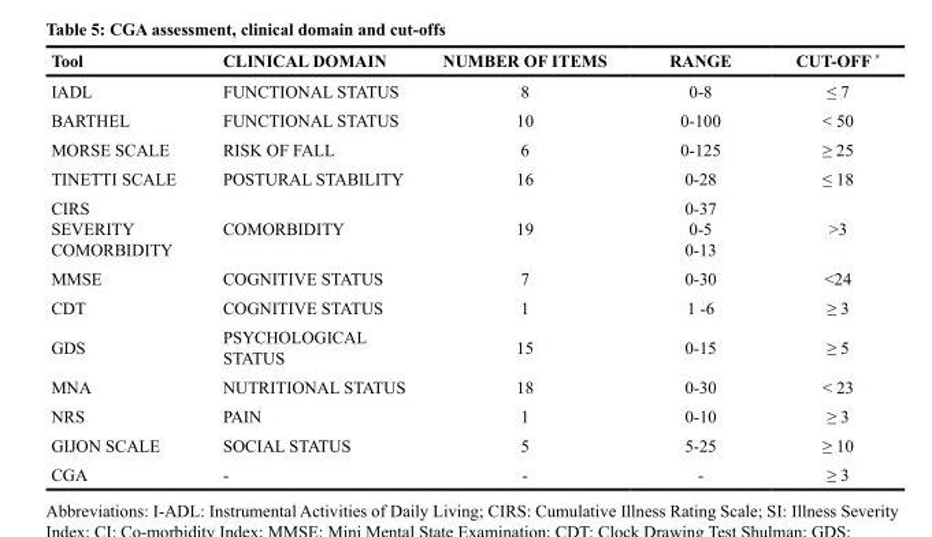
<table><thead><tr><td>Tool</td><td>CLINICAL DOMAIN</td><td>NUMBER OF ITEMS</td><td>RANGE</td><td>CUT-OFF *</td></tr></thead><tbody><tr><td>IADL</td><td>FUNCTIONAL STATUS</td><td>8</td><td>0-8</td><td>≤ 7</td></tr><tr><td>BARTHEL</td><td>FUNCTIONAL STATUS</td><td>10</td><td>0-100</td><td>&lt; 50</td></tr><tr><td>MORSE SCALE</td><td>RISK OF FALL</td><td>6</td><td>0-125</td><td>≥ 25</td></tr><tr><td>TINETTI SCALE</td><td>POSTURAL STABILITY</td><td>16</td><td>0-28</td><td>≤ 18</td></tr><tr><td>CIRS SEVERITY COMORBIDITY</td><td>COMORBIDITY</td><td>19</td><td>0-37 0-5 0-13</td><td>&gt;3</td></tr><tr><td>MMSE</td><td>COGNITIVE STATUS</td><td>7</td><td>0-30</td><td>&lt;24</td></tr><tr><td>CDT</td><td>COGNITIVE STATUS</td><td>1</td><td>1 -6</td><td>≥ 3</td></tr><tr><td>GDS</td><td>PSYCHOLOGICAL STATUS</td><td>15</td><td>0-15</td><td>≥ 5</td></tr><tr><td>MNA</td><td>NUTRITIONAL STATUS</td><td>18</td><td>0-30</td><td>&lt; 23</td></tr><tr><td>NRS</td><td>PAIN</td><td>1</td><td>0-10</td><td>≥ 3</td></tr><tr><td>GIJON SCALE</td><td>SOCIAL STATUS</td><td>5</td><td>5-25</td><td>≥ 10</td></tr><tr><td>CGA</td><td>-</td><td>-</td><td>-</td><td>≥ 3</td></tr></tbody></table>